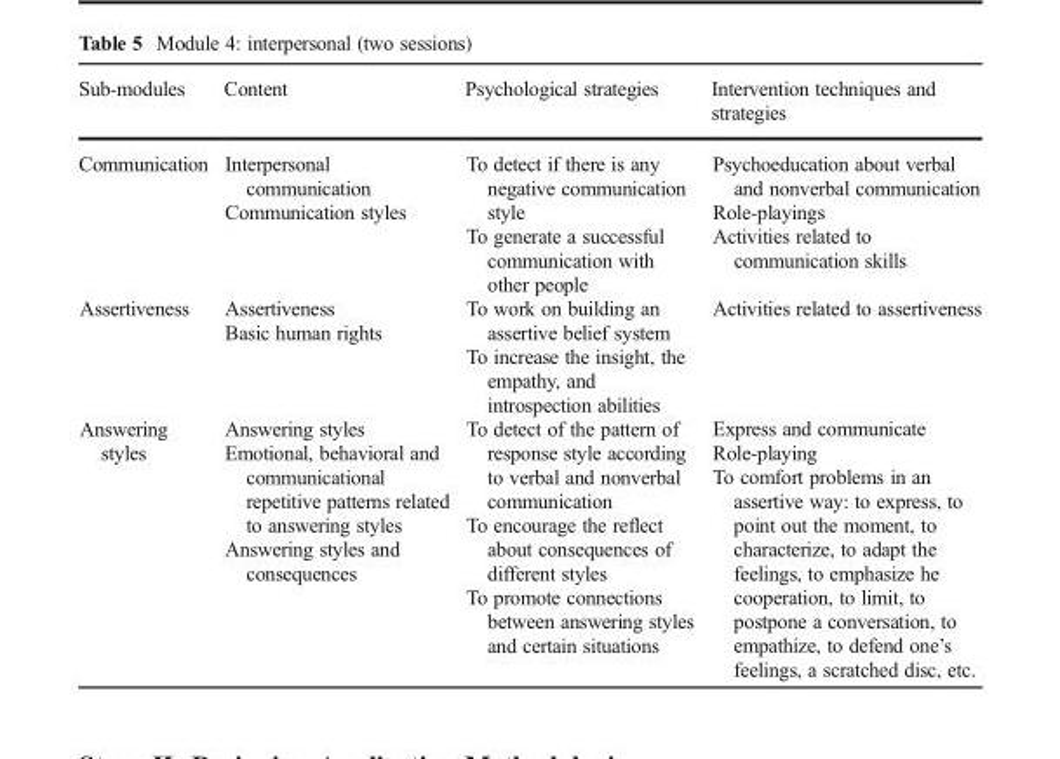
<table><thead><tr><td>Sub-modules</td><td>Content</td><td>Psychological strategies</td><td>Intervention techniques and strategies</td></tr></thead><tbody><tr><td>Communication</td><td>Interpersonal communication Communication styles</td><td>To detect if there is any negative communication style To generate a successful communication with other people</td><td>Psychoeducation about verbal and nonverbal communication Role-playings Activities related to communication skills</td></tr><tr><td>Assertiveness</td><td>Assertiveness Basic human rights</td><td>To work on building an assertive belief system To increase the insight, the empathy, and introspection abilities</td><td>Activities related to assertiveness</td></tr><tr><td>Answering styles</td><td>Answering styles Emotional, behavioral and communicational repetitive patterns related to answering styles Answering styles and consequences</td><td>To detect of the pattern of response style according to verbal and nonverbal communication To encourage the reflect about consequences of different styles To promote connections between answering styles and certain situations</td><td>Express and communicate Role-playing To comfort problems in an assertive way: to express, to point out the moment, to characterize, to adapt the feelings, to emphasize he cooperation, to limit, to postpone a conversation, to empathize, to defend one’s feelings, a scratched disc, etc.</td></tr></tbody></table>